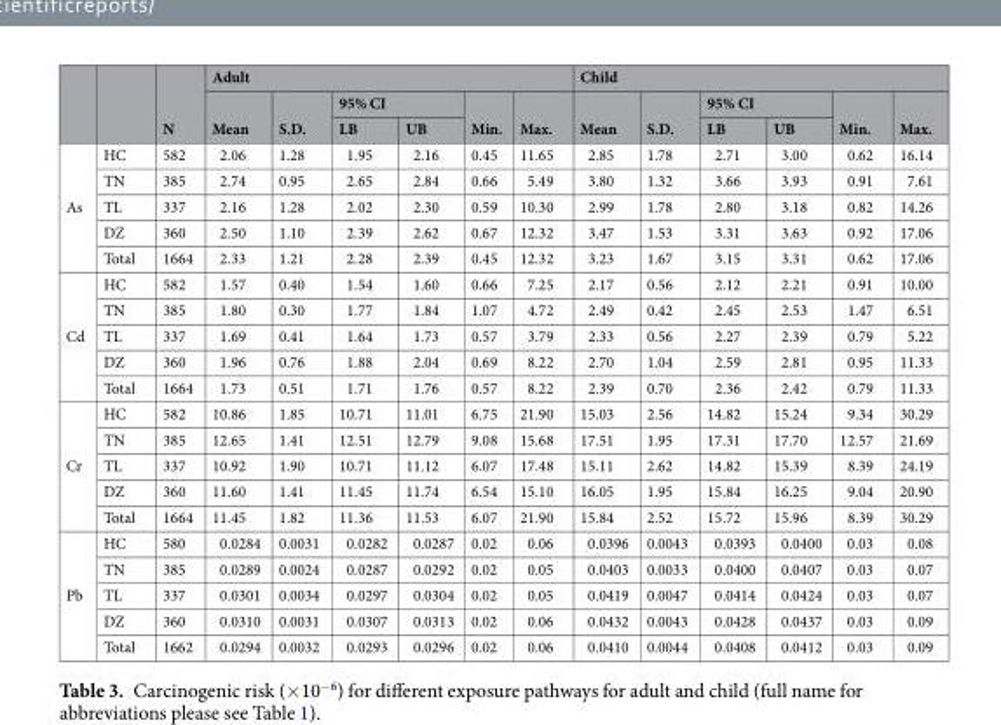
<table><thead><tr><td rowspan="3"></td><td rowspan="3"></td><td rowspan="3">N</td><td colspan="6">Adult</td><td colspan="6">Child</td></tr><tr><td rowspan="2">Mean</td><td rowspan="2">S.D.</td><td colspan="2">95% CI</td><td rowspan="2">Min.</td><td rowspan="2">Max.</td><td rowspan="2">Mean</td><td rowspan="2">S.D.</td><td colspan="2">95% CI</td><td rowspan="2">Min.</td><td rowspan="2">Max.</td></tr><tr><td>LB</td><td>UB</td><td>LB</td><td>UB</td></tr></thead><tbody><tr><td rowspan="5">As</td><td>HC</td><td>582</td><td>2.06</td><td>1.28</td><td>1.95</td><td>2.16</td><td>0.45</td><td>11.65</td><td>2.85</td><td>1.78</td><td>2.71</td><td>3.00</td><td>0.62</td><td>16.14</td></tr><tr><td>TN</td><td>385</td><td>2.74</td><td>0.95</td><td>2.65</td><td>2.84</td><td>0.66</td><td>5.49</td><td>3.80</td><td>1.32</td><td>3.66</td><td>3.93</td><td>0.91</td><td>7.61</td></tr><tr><td>TL</td><td>337</td><td>2.16</td><td>1.28</td><td>2.02</td><td>2.30</td><td>0.59</td><td>10.30</td><td>2.99</td><td>1.78</td><td>2.80</td><td>3.18</td><td>0.82</td><td>14.26</td></tr><tr><td>DZ</td><td>360</td><td>2.50</td><td>1.10</td><td>2.39</td><td>2.62</td><td>0.67</td><td>12.32</td><td>3.47</td><td>1.53</td><td>3.31</td><td>3.63</td><td>0.92</td><td>17.06</td></tr><tr><td>Total</td><td>1664</td><td>2.33</td><td>1.21</td><td>2.28</td><td>2.39</td><td>0.45</td><td>12.32</td><td>3.23</td><td>1.67</td><td>3.15</td><td>3.31</td><td>0.62</td><td>17.06</td></tr><tr><td rowspan="5">Cd</td><td>HC</td><td>582</td><td>1.57</td><td>0.40</td><td>1.54</td><td>1.60</td><td>0.66</td><td>7.25</td><td>2.17</td><td>0.56</td><td>2.12</td><td>2.21</td><td>0.91</td><td>10.00</td></tr><tr><td>TN</td><td>385</td><td>1.80</td><td>0.30</td><td>1.77</td><td>1.84</td><td>1.07</td><td>4.72</td><td>2.49</td><td>0.42</td><td>2.45</td><td>2.53</td><td>1.47</td><td>6.51</td></tr><tr><td>TL</td><td>337</td><td>1.69</td><td>0.41</td><td>1.64</td><td>1.73</td><td>0.57</td><td>3.79</td><td>2.33</td><td>0.56</td><td>2.27</td><td>2.39</td><td>0.79</td><td>5.22</td></tr><tr><td>DZ</td><td>360</td><td>1.96</td><td>0.76</td><td>1.88</td><td>2.04</td><td>0.69</td><td>8.22</td><td>2.70</td><td>1.04</td><td>2.59</td><td>2.81</td><td>0.95</td><td>11.33</td></tr><tr><td>Total</td><td>1664</td><td>1.73</td><td>0.51</td><td>1.71</td><td>1.76</td><td>0.57</td><td>8.22</td><td>2.39</td><td>0.70</td><td>2.36</td><td>2.42</td><td>0.79</td><td>11.33</td></tr><tr><td rowspan="5">Cr</td><td>HC</td><td>582</td><td>10.86</td><td>1.85</td><td>10.71</td><td>11.01</td><td>6.75</td><td>21.90</td><td>15.03</td><td>2.56</td><td>14.82</td><td>15.24</td><td>9.34</td><td>30.29</td></tr><tr><td>TN</td><td>385</td><td>12.65</td><td>1.41</td><td>12.51</td><td>12.79</td><td>9.08</td><td>15.68</td><td>17.51</td><td>1.95</td><td>17.31</td><td>17.70</td><td>12.57</td><td>21.69</td></tr><tr><td>TL</td><td>337</td><td>10.92</td><td>1.90</td><td>10.71</td><td>11.12</td><td>6.07</td><td>17.48</td><td>15.11</td><td>2.62</td><td>14.82</td><td>15.39</td><td>8.39</td><td>24.19</td></tr><tr><td>DZ</td><td>360</td><td>11.60</td><td>1.41</td><td>11.45</td><td>11.74</td><td>6.54</td><td>15.10</td><td>16.05</td><td>1.95</td><td>15.84</td><td>16.25</td><td>9.04</td><td>20.90</td></tr><tr><td>Total</td><td>1664</td><td>11.45</td><td>1.82</td><td>11.36</td><td>11.53</td><td>6.07</td><td>21.90</td><td>15.84</td><td>2.52</td><td>15.72</td><td>15.96</td><td>8.39</td><td>30.29</td></tr><tr><td rowspan="5">Pb</td><td>HC</td><td>580</td><td>0.0284</td><td>0.0031</td><td>0.0282</td><td>0.0287</td><td>0.02</td><td>0.06</td><td>0.0396</td><td>0.0043</td><td>0.0393</td><td>0.0400</td><td>0.03</td><td>0.08</td></tr><tr><td>TN</td><td>385</td><td>0.0289</td><td>0.0024</td><td>0.0287</td><td>0.0292</td><td>0.02</td><td>0.05</td><td>0.0403</td><td>0.0033</td><td>0.0400</td><td>0.0407</td><td>0.03</td><td>0.07</td></tr><tr><td>TL</td><td>337</td><td>0.0301</td><td>0.0034</td><td>0.0297</td><td>0.0304</td><td>0.02</td><td>0.05</td><td>0.0419</td><td>0.0047</td><td>0.0414</td><td>0.0424</td><td>0.03</td><td>0.07</td></tr><tr><td>DZ</td><td>360</td><td>0.0310</td><td>0.0031</td><td>0.0307</td><td>0.0313</td><td>0.02</td><td>0.06</td><td>0.0432</td><td>0.0043</td><td>0.0428</td><td>0.0437</td><td>0.03</td><td>0.09</td></tr><tr><td>Total</td><td>1662</td><td>0.0294</td><td>0.0032</td><td>0.0293</td><td>0.0296</td><td>0.02</td><td>0.06</td><td>0.0410</td><td>0.0044</td><td>0.0408</td><td>0.0412</td><td>0.03</td><td>0.09</td></tr></tbody></table>